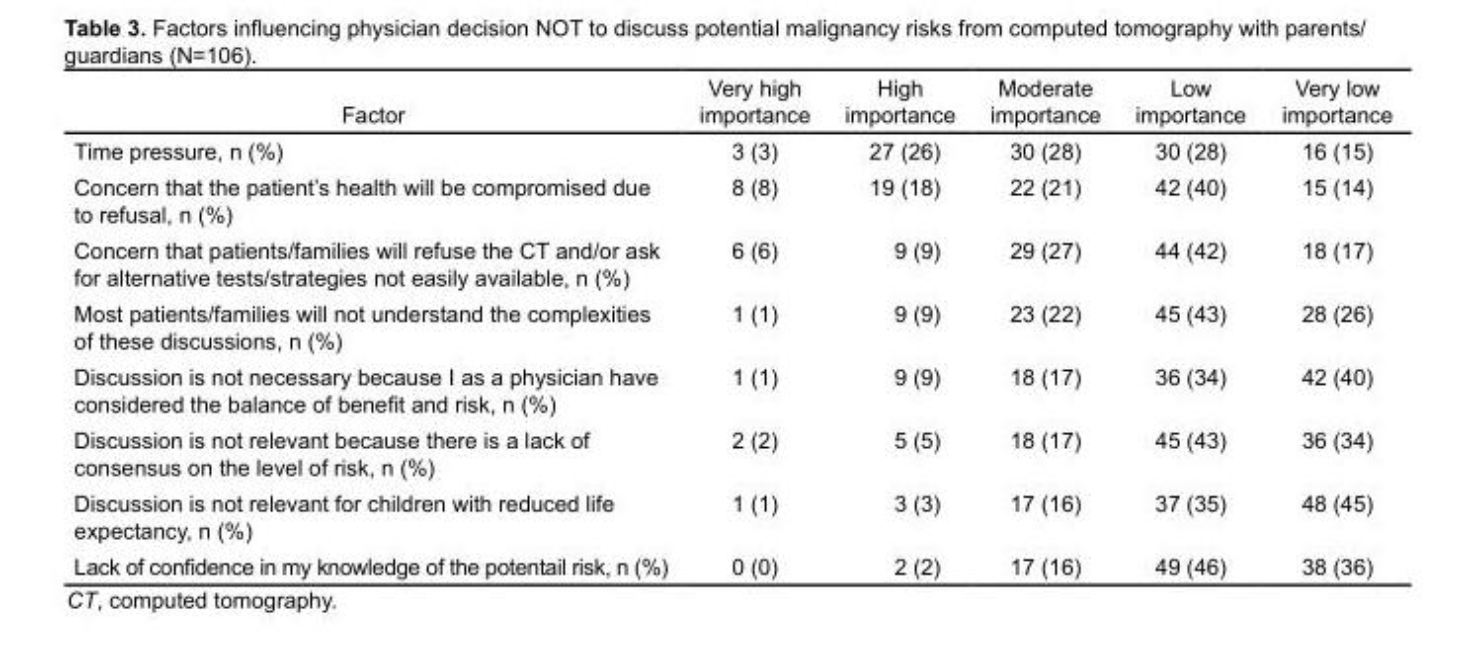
<table><thead><tr><td>Factor</td><td>Very high importance</td><td>High importance</td><td>Moderate importance</td><td>Low importance</td><td>Very low importance</td></tr></thead><tbody><tr><td>Time pressure, n (%)</td><td>3 (3)</td><td>27 (26)</td><td>30 (28)</td><td>30 (28)</td><td>16 (15)</td></tr><tr><td>Concern that the patient’s health will be compromised due to refusal, n (%)</td><td>8 (8)</td><td>19 (18)</td><td>22 (21)</td><td>42 (40)</td><td>15 (14)</td></tr><tr><td>Concern that patients/families will refuse the CT and/or ask for alternative tests/strategies not easily available, n (%)</td><td>6 (6)</td><td>9 (9)</td><td>29 (27)</td><td>44 (42)</td><td>18 (17)</td></tr><tr><td>Most patients/families will not understand the complexities of these discussions, n (%)</td><td>1 (1)</td><td>9 (9)</td><td>23 (22)</td><td>45 (43)</td><td>28 (26)</td></tr><tr><td>Discussion is not necessary because I as a physician have considered the balance of benefit and risk, n (%)</td><td>1 (1)</td><td>9 (9)</td><td>18 (17)</td><td>36 (34)</td><td>42 (40)</td></tr><tr><td>Discussion is not relevant because there is a lack of consensus on the level of risk, n (%)</td><td>2 (2)</td><td>5 (5)</td><td>18 (17)</td><td>45 (43)</td><td>36 (34)</td></tr><tr><td>Discussion is not relevant for children with reduced life expectancy, n (%)</td><td>1 (1)</td><td>3 (3)</td><td>17 (16)</td><td>37 (35)</td><td>48 (45)</td></tr><tr><td>Lack of confidence in my knowledge of the potentail risk, n (%)</td><td>0 (0)</td><td>2 (2)</td><td>17 (16)</td><td>49 (46)</td><td>38 (36)</td></tr></tbody></table>